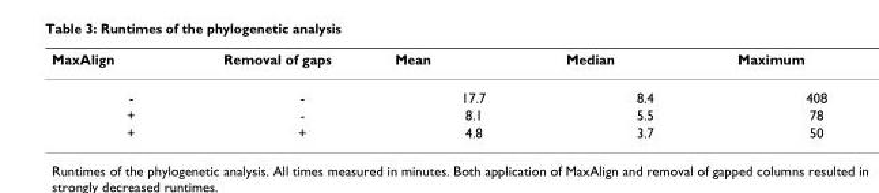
<table><thead><tr><td>MaxAlign</td><td>Removal of gaps</td><td>Mean</td><td>Median</td><td>Maximum</td></tr></thead><tbody><tr><td>-</td><td>-</td><td>17.7</td><td>8.4</td><td>408</td></tr><tr><td>+</td><td>-</td><td>8.1</td><td>5.5</td><td>78</td></tr><tr><td>+</td><td>+</td><td>4.8</td><td>3.7</td><td>50</td></tr></tbody></table>